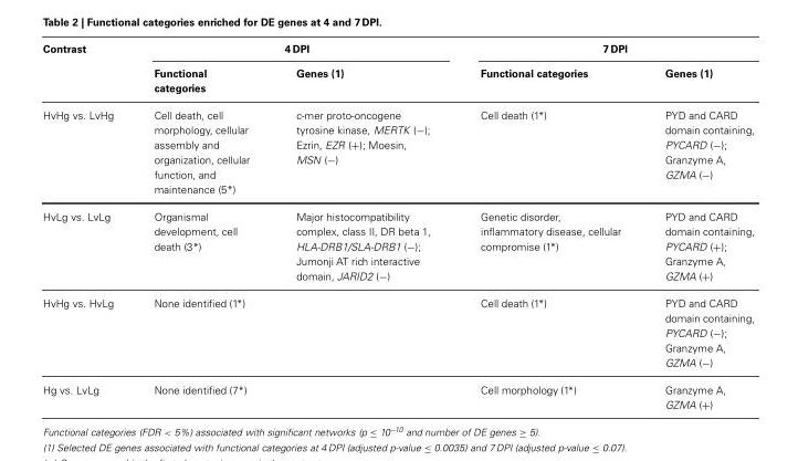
<table><thead><tr><td rowspan="2">Contrast</td><td colspan="2">4 DPI</td><td colspan="2">7 DPI</td></tr><tr><td>Functional categories</td><td>Genes (1)</td><td>Functional categories</td><td>Genes (1)</td></tr></thead><tbody><tr><td>HvHg vs. LvHg</td><td>Cell death, cell morphology, cellular assembly and organization, cellular function, and maintenance (5*)</td><td>c-mer proto-oncogene tyrosine kinase, MERTK (−); Ezrin, EZR (+); Moesin, MSN (−)</td><td>Cell death (1*)</td><td>PYD and CARD domain containing, PYCARD (−); Granzyme A, GZMA (−)</td></tr><tr><td>HvLg vs. LvLg</td><td>Organismal development, cell death (3*)</td><td>Major histocompatibility complex, class II, DR beta 1, HLA-DRB1/SLA-DRB1 (−); Jumonji AT rich interactive domain, JARID2 (−)</td><td>Genetic disorder, inflammatory disease, cellular compromise (1*)</td><td>PYD and CARD domain containing, PYCARD (+); Granzyme A, GZMA (+)</td></tr><tr><td>HvHg vs. HvLg</td><td>None identified (1*)</td><td></td><td>Cell death (1*)</td><td>PYD and CARD domain containing, PYCARD (−); Granzyme A, GZMA (−)</td></tr><tr><td>Hg vs. LvLg</td><td>None identified (7*)</td><td></td><td>Cell morphology (1*)</td><td>Granzyme A, GZMA (+)</td></tr></tbody></table>